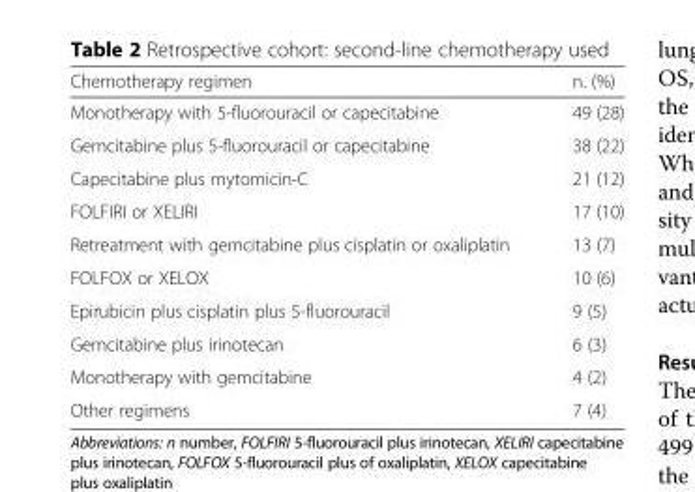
<table><thead><tr><td>Chemotherapy regimen</td><td>n. (%)</td></tr></thead><tbody><tr><td>Monotherapy with 5-fluorouracil or capecitabine</td><td>49 (28)</td></tr><tr><td>Gemcitabine plus 5-fluorouracil or capecitabine</td><td>38 (22)</td></tr><tr><td>Capecitabine plus mytomicin-C</td><td>21 (12)</td></tr><tr><td>FOLFIRI or XELIRI</td><td>17 (10)</td></tr><tr><td>Retreatment with gemcitabine plus cisplatin or oxaliplatin</td><td>13 (7)</td></tr><tr><td>FOLFOX or XELOX</td><td>10 (6)</td></tr><tr><td>Epirubicin plus cisplatin plus 5-fluorouracil</td><td>9 (5)</td></tr><tr><td>Gemcitabine plus irinotecan</td><td>6 (3)</td></tr><tr><td>Monotherapy with gemcitabine</td><td>4 (2)</td></tr><tr><td>Other regimens</td><td>7 (4)</td></tr></tbody></table>